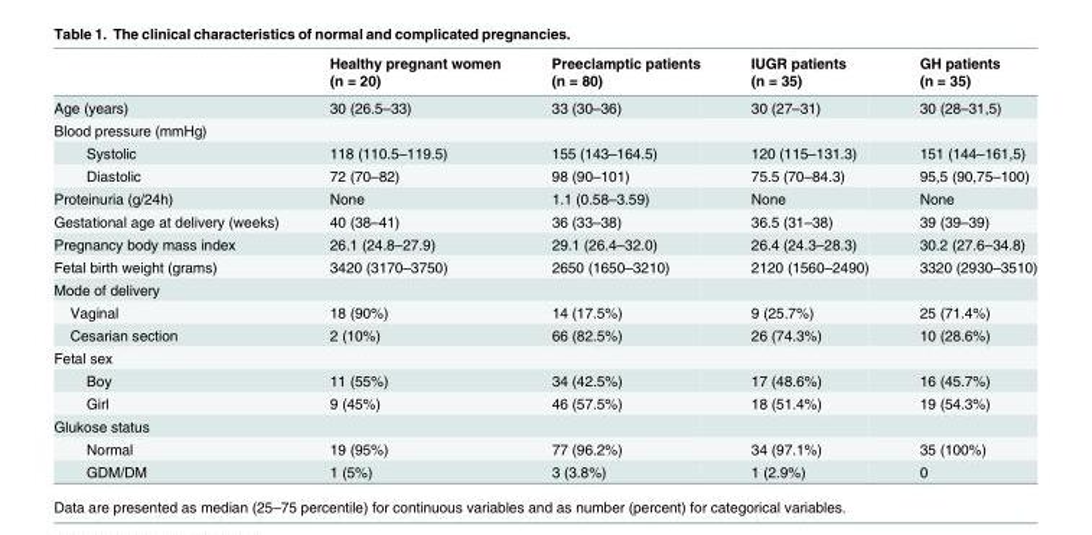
<table><thead><tr><td rowspan="2"></td><td rowspan="2">Healthy pregnant women (n = 20)</td><td rowspan="2">Preeclamptic patients (n = 80)</td><td rowspan="2">IUGR patients (n = 35)</td><td rowspan="2">GH patients (n = 35)</td></tr><tr></tr></thead><tbody><tr><td>Age (years)</td><td>30 (26.5–33)</td><td>33 (30–36)</td><td>30 (27–31)</td><td>30 (28–31,5)</td></tr><tr><td colspan="5">Blood pressure (mmHg)</td></tr><tr><td>Systolic</td><td>118 (110.5–119.5)</td><td>155 (143–164.5)</td><td>120 (115–131.3)</td><td>151 (144–161,5)</td></tr><tr><td>Diastolic</td><td>72 (70–82)</td><td>98 (90–101)</td><td>75.5 (70–84.3)</td><td>95,5 (90,75–100)</td></tr><tr><td>Proteinuria (g/24h)</td><td>None</td><td>1.1 (0.58–3.59)</td><td>None</td><td>None</td></tr><tr><td>Gestational age at delivery (weeks)</td><td>40 (38–41)</td><td>36 (33–38)</td><td>36.5 (31–38)</td><td>39 (39–39)</td></tr><tr><td>Pregnancy body mass index</td><td>26.1 (24.8–27.9)</td><td>29.1 (26.4–32.0)</td><td>26.4 (24.3–28.3)</td><td>30.2 (27.6–34.8)</td></tr><tr><td>Fetal birth weight (grams)</td><td>3420 (3170–3750)</td><td>2650 (1650–3210)</td><td>2120 (1560–2490)</td><td>3320 (2930–3510)</td></tr><tr><td colspan="5">Mode of delivery</td></tr><tr><td>Vaginal</td><td>18 (90%)</td><td>14 (17.5%)</td><td>9 (25.7%)</td><td>25 (71.4%)</td></tr><tr><td>Cesarian section</td><td>2 (10%)</td><td>66 (82.5%)</td><td>26 (74.3%)</td><td>10 (28.6%)</td></tr><tr><td colspan="5">Fetal sex</td></tr><tr><td>Boy</td><td>11 (55%)</td><td>34 (42.5%)</td><td>17 (48.6%)</td><td>16 (45.7%)</td></tr><tr><td>Girl</td><td>9 (45%)</td><td>46 (57.5%)</td><td>18 (51.4%)</td><td>19 (54.3%)</td></tr><tr><td colspan="5">Glukose status</td></tr><tr><td>Normal</td><td>19 (95%)</td><td>77 (96.2%)</td><td>34 (97.1%)</td><td>35 (100%)</td></tr><tr><td>GDM/DM</td><td>1 (5%)</td><td>3 (3.8%)</td><td>1 (2.9%)</td><td>0</td></tr></tbody></table>